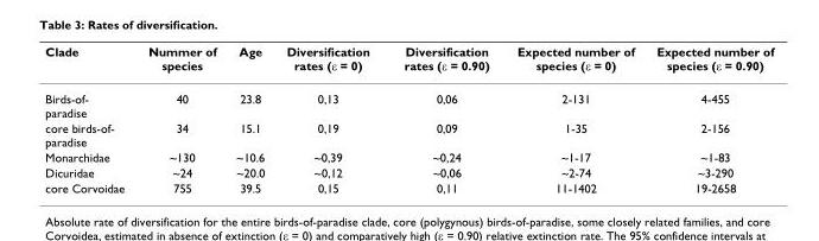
<table><thead><tr><td>Clade</td><td>Nummer of species</td><td>Age</td><td>Diversification rates (ε = 0)</td><td>Diversification rates (ε = 0.90)</td><td>Expected number of species (ε = 0)</td><td>Expected number of species (ε = 0.90)</td></tr></thead><tbody><tr><td>Birds-of- paradise</td><td>40</td><td>23.8</td><td>0,13</td><td>0,06</td><td>2-131</td><td>4-455</td></tr><tr><td>core birds-of- paradise</td><td>34</td><td>15.1</td><td>0,19</td><td>0,09</td><td>1-35</td><td>2-156</td></tr><tr><td>Monarchidae</td><td>~130</td><td>~10.6</td><td>~0,39</td><td>~0,24</td><td>~1-17</td><td>~1-83</td></tr><tr><td>Dicuridae</td><td>~24</td><td>~20.0</td><td>~0,12</td><td>~0,06</td><td>~2-74</td><td>~3-290</td></tr><tr><td>core Corvoidae</td><td>755</td><td>39.5</td><td>0,15</td><td>0,11</td><td>11-1402</td><td>19-2658</td></tr></tbody></table>